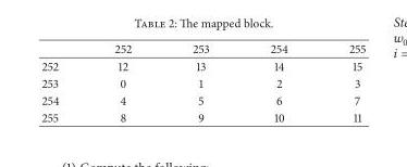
<table><thead><tr><td></td><td>252</td><td>253</td><td>254</td><td>255</td></tr></thead><tbody><tr><td>252</td><td>12</td><td>13</td><td>14</td><td>15</td></tr><tr><td>253</td><td>0</td><td>1</td><td>2</td><td>3</td></tr><tr><td>254</td><td>4</td><td>5</td><td>6</td><td>7</td></tr><tr><td>255</td><td>8</td><td>9</td><td>10</td><td>11</td></tr></tbody></table>